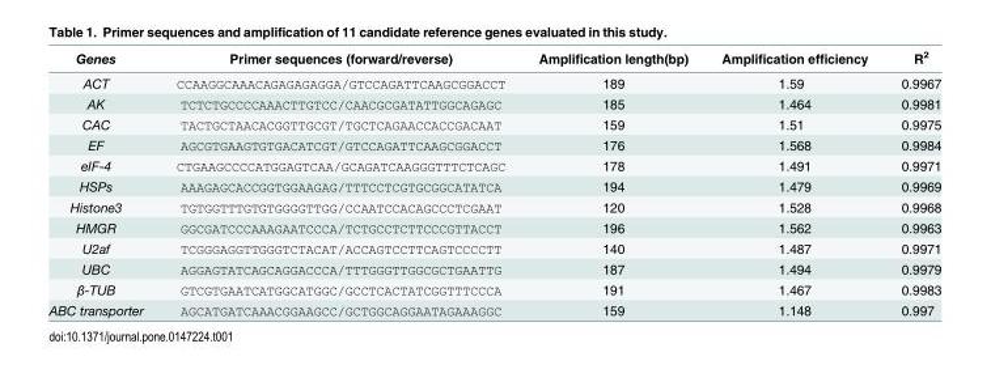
<table><thead><tr><td>Genes</td><td>Primer sequences (forward/reverse)</td><td>Amplification length(bp)</td><td>Amplification efficiency</td><td>R<sup>2</sup></td></tr></thead><tbody><tr><td>ACT</td><td>CCAAGGCAAACAGAGAGAGGA/GTCCAGATTCAAGCGGACCT</td><td>189</td><td>1.59</td><td>0.9967</td></tr><tr><td>AK</td><td>TCTCTGCCCCAAACTTGTCC/CAACGCGATATTGGCAGAGC</td><td>185</td><td>1.464</td><td>0.9981</td></tr><tr><td>CAC</td><td>TACTGCTAACACGGTTGCGT/TGCTCAGAACCACCGACAAT</td><td>159</td><td>1.51</td><td>0.9975</td></tr><tr><td>EF</td><td>AGCGTGAAGTGTGACATCGT/GTCCAGATTCAAGCGGACCT</td><td>176</td><td>1.568</td><td>0.9984</td></tr><tr><td>eIF-4</td><td>CTGAAGCCCCATGGAGTCAA/GCAGATCAAGGGTTTCTCAGC</td><td>178</td><td>1.491</td><td>0.9971</td></tr><tr><td>HSPs</td><td>AAAGAGCACCGGTGGAAGAG/TTTCCTCGTGCGGCATATCA</td><td>194</td><td>1.479</td><td>0.9969</td></tr><tr><td>Histone3</td><td>TGTGGTTTGTGTGGGGTTGG/CCAATCCACAGCCCTCGAAT</td><td>120</td><td>1.528</td><td>0.9968</td></tr><tr><td>HMGR</td><td>GGCGATCCCAAAGAATCCCA/TCTGCCTCTTCCCGTTACCT</td><td>196</td><td>1.562</td><td>0.9963</td></tr><tr><td>U2af</td><td>TCGGGAGGTTGGGTCTACAT/ACCAGTCCTTCAGTCCCCTT</td><td>140</td><td>1.487</td><td>0.9971</td></tr><tr><td>UBC</td><td>AGGAGTATCAGCAGGACCCA/TTTGGGTTGGCGCTGAATTG</td><td>187</td><td>1.494</td><td>0.9979</td></tr><tr><td>β-TUB</td><td>GTCGTGAATCATGGCATGGC/GCCTCACTATCGGTTTCCCA</td><td>191</td><td>1.467</td><td>0.9983</td></tr><tr><td>ABC transporter</td><td>AGCATGATCAAACGGAAGCC/GCTGGCAGGAATAGAAAGGC</td><td>159</td><td>1.148</td><td>0.997</td></tr></tbody></table>